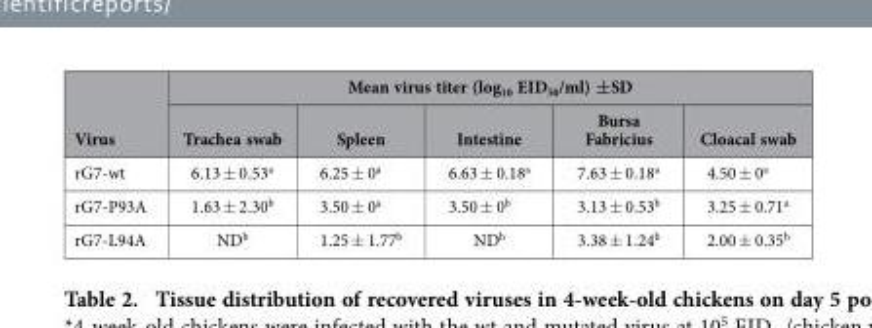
<table><thead><tr><td rowspan="2">Virus</td><td colspan="5">Mean virus titer (log<sub>10</sub> EID<sub>50</sub>/ml) ±SD</td></tr><tr><td>Trachea swab</td><td>Spleen</td><td>Intestine</td><td>Bursa Fabricius</td><td>Cloacal swab</td></tr></thead><tbody><tr><td>rG7-wt</td><td>6.13 ± 0.53<sup>a</sup></td><td>6.25 ± 0<sup>a</sup></td><td>6.63 ± 0.18<sup>a</sup></td><td>7.63 ± 0.18<sup>a</sup></td><td>4.50 ± 0<sup>a</sup></td></tr><tr><td>rG7-P93A</td><td>1.63 ± 2.30<sup>b</sup></td><td>3.50 ± 0<sup>a</sup></td><td>3.50 ± 0<sup>b</sup></td><td>3.13 ± 0.53<sup>b</sup></td><td>3.25 ± 0.71<sup>a</sup></td></tr><tr><td>rG7-L94A</td><td>ND<sup>b</sup></td><td>1.25 ± 1.77<sup>b</sup></td><td>ND<sup>b</sup></td><td>3.38 ± 1.24<sup>b</sup></td><td>2.00 ± 0.35<sup>b</sup></td></tr></tbody></table>